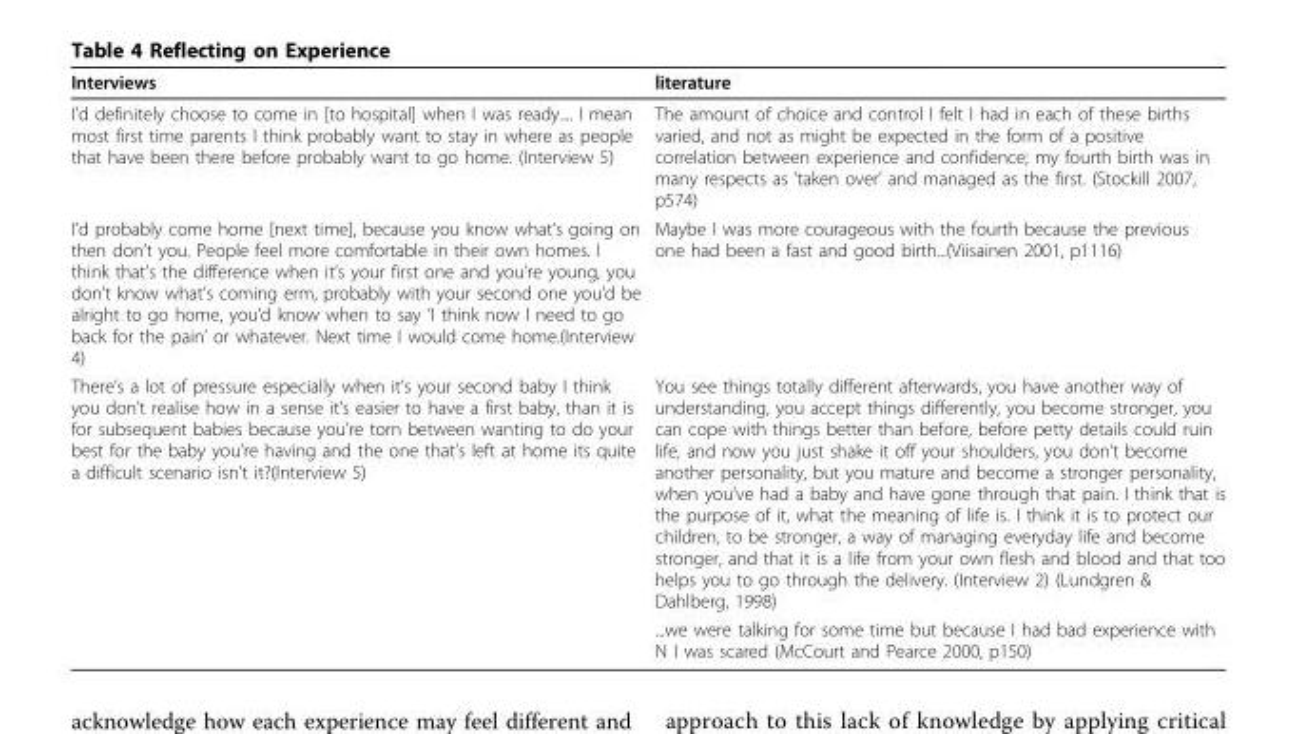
<table><thead><tr><td>Interviews</td><td>literature</td></tr></thead><tbody><tr><td>I’d definitely choose to come in [to hospital] when I was ready.... I mean most first time parents I think probably want to stay in where as people that have been there before probably want to go home. (Interview 5)</td><td>The amount of choice and control I felt I had in each of these births varied, and not as might be expected in the form of a positive correlation between experience and confidence; my fourth birth was in many respects as ‘taken over’ and managed as the first. (Stockill 2007, p574)</td></tr><tr><td>I’d probably come home [next time], because you know what’s going on then don’t you. People feel more comfortable in their own homes. I think that’s the difference when it’s your first one and you’re young, you don’t know what’s coming erm, probably with your second one you’d be alright to go home, you’d know when to say ‘I think now I need to go back for the pain’ or whatever. Next time I would come home.(Interview 4)</td><td>Maybe I was more courageous with the fourth because the previous one had been a fast and good birth...(Viisainen 2001, p1116)</td></tr><tr><td rowspan="2">There’s a lot of pressure especially when it’s your second baby I think you don’t realise how in a sense it’s easier to have a first baby, than it is for subsequent babies because you’re torn between wanting to do your best for the baby you’re having and the one that’s left at home its quite a difficult scenario isn’t it?(Interview 5)</td><td>You see things totally different afterwards, you have another way of understanding, you accept things differently, you become stronger, you can cope with things better than before, before petty details could ruin life, and now you just shake it off your shoulders, you don’t become another personality, but you mature and become a stronger personality, when you’ve had a baby and have gone through that pain. I think that is the purpose of it, what the meaning of life is. I think it is to protect our children, to be stronger, a way of managing everyday life and become stronger, and that it is a life from your own flesh and blood and that too helps you to go through the delivery. (Interview 2) (Lundgren &amp; Dahlberg, 1998)</td></tr><tr><td>...we were talking for some time but because I had bad experience with N I was scared (McCourt and Pearce 2000, p150)</td></tr></tbody></table>